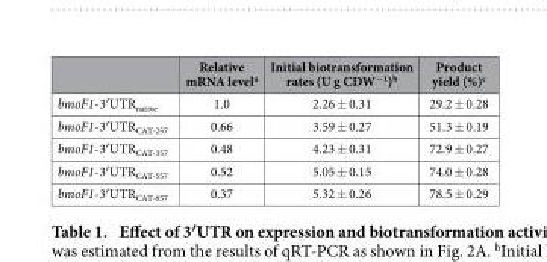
<table><thead><tr><td></td><td>Relative mRNA level<sup>a</sup></td><td>Initial biotransformation rates (U g CDW<sup>−1</sup>)<sup>b</sup></td><td>Product yield (%)<sup>c</sup></td></tr></thead><tbody><tr><td>bmoF1-3′ UTR<sub>native</sub></td><td>1.0</td><td>2.26 ± 0.31</td><td>29.2 ± 0.28</td></tr><tr><td>bmoF1-3′ UTR<sub>CAT-257</sub></td><td>0.66</td><td>3.59 ± 0.27</td><td>51.3 ± 0.19</td></tr><tr><td>bmoF1-3′ UTR<sub>CAT-357</sub></td><td>0.48</td><td>4.23 ± 0.31</td><td>72.9 ± 0.27</td></tr><tr><td>bmoF1-3′ UTR<sub>CAT-557</sub></td><td>0.52</td><td>5.05 ± 0.15</td><td>74.0 ± 0.28</td></tr><tr><td>bmoF1-3′ UTR<sub>CAT-657</sub></td><td>0.37</td><td>5.32 ± 0.26</td><td>78.5 ± 0.29</td></tr></tbody></table>